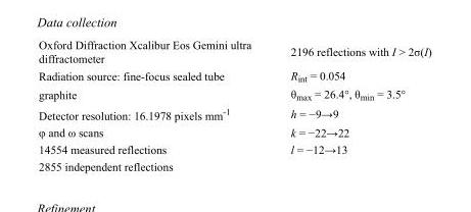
<table><tbody><tr><td>Oxford Diffraction Xcalibur Eos Gemini ultra diffractometer</td><td>2196 reflections with I &gt; 2σ(I)</td></tr><tr><td>Radiation source: fine-focus sealed tube</td><td>R<sub>int</sub> = 0.054</td></tr><tr><td>graphite</td><td>θ<sub>max</sub> = 26.4°, θ<sub>min</sub> = 3.5°</td></tr><tr><td>Detector resolution: 16.1978 pixels mm<sup>-1</sup></td><td>h = −9→9</td></tr><tr><td>φ and ω scans</td><td>k = −22→22</td></tr><tr><td>14554 measured reflections</td><td>l = −12→13</td></tr><tr><td>2855 independent reflections</td><td></td></tr></tbody></table>